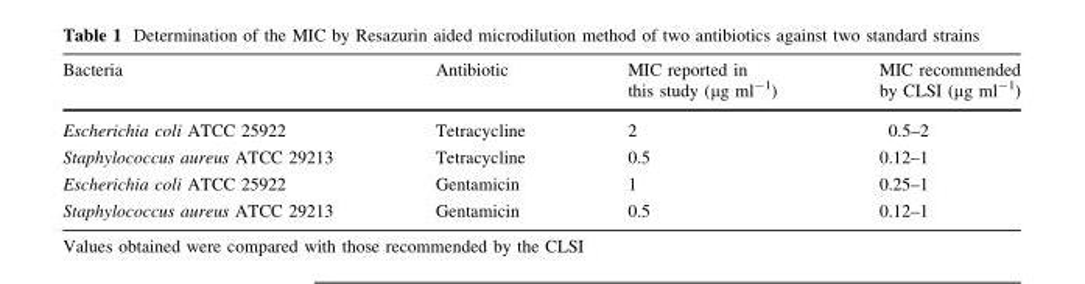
<table><thead><tr><td>Bacteria</td><td>Antibiotic</td><td>MIC reported in this study (µg ml<sup>-1</sup>)</td><td>MIC recommended by CLSI (µg ml<sup>-1</sup>)</td></tr></thead><tbody><tr><td>Escherichia coli ATCC 25922</td><td>Tetracycline</td><td>2</td><td>0.5–2</td></tr><tr><td>Staphylococcus aureus ATCC 29213</td><td>Tetracycline</td><td>0.5</td><td>0.12–1</td></tr><tr><td>Escherichia coli ATCC 25922</td><td>Gentamicin</td><td>1</td><td>0.25–1</td></tr><tr><td>Staphylococcus aureus ATCC 29213</td><td>Gentamicin</td><td>0.5</td><td>0.12–1</td></tr></tbody></table>